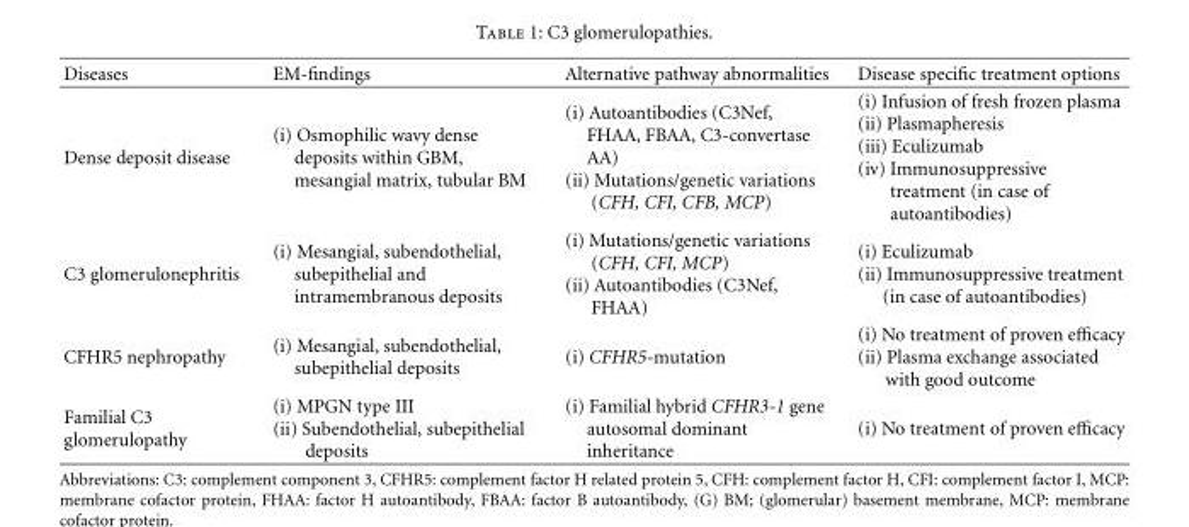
<table><thead><tr><td>Diseases</td><td>EM-findings</td><td>Alternative pathway abnormalities</td><td>Disease specific treatment options</td></tr></thead><tbody><tr><td>Dense deposit disease</td><td>(i) Osmophilic wavy dense deposits within GBM, mesangial matrix, tubular BM</td><td>(i) Autoantibodies (C3Nef, FHAA, FBAA, C3-convertase AA) (ii) Mutations/genetic variations (CFH, CFI, CFB, MCP)</td><td>(i) Infusion of fresh frozen plasma (ii) Plasmapheresis (iii) Eculizumab (iv) Immunosuppressive treatment (in case of autoantibodies)</td></tr><tr><td>C3 glomerulonephritis</td><td>(i) Mesangial, subendothelial, subepithelial and intramembranous deposits</td><td>(i) Mutations/genetic variations (CFH, CFI, MCP) (ii) Autoantibodies (C3Nef, FHAA)</td><td>(i) Eculizumab (ii) Immunosuppressive treatment (in case of autoantibodies)</td></tr><tr><td>CFHR5 nephropathy</td><td>(i) Mesangial, subendothelial, subepithelial deposits</td><td>(i) CFHR5-mutation</td><td>(i) No treatment of proven efficacy (ii) Plasma exchange associated with good outcome</td></tr><tr><td>Familial C3 glomerulopathy</td><td>(i) MPGN type III (ii) Subendothelial, subepithelial deposits</td><td>(i) Familial hybrid CFHR3-1 gene autosomal dominant inheritance</td><td>(i) No treatment of proven efficacy</td></tr></tbody></table>